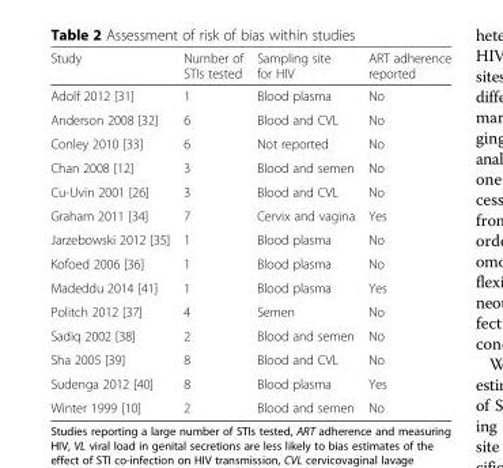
<table><thead><tr><td>Study</td><td>Number of STIs tested</td><td>Sampling site for HIV</td><td>ART adherence reported</td></tr></thead><tbody><tr><td>Adolf 2012 [31]</td><td>1</td><td>Blood plasma</td><td>No</td></tr><tr><td>Anderson 2008 [32]</td><td>6</td><td>Blood and CVL</td><td>No</td></tr><tr><td>Conley 2010 [33]</td><td>6</td><td>Not reported</td><td>No</td></tr><tr><td>Chan 2008 [12]</td><td>3</td><td>Blood and semen</td><td>No</td></tr><tr><td>Cu-Uvin 2001 [26]</td><td>3</td><td>Blood and CVL</td><td>No</td></tr><tr><td>Graham 2011 [34]</td><td>7</td><td>Cervix and vagina</td><td>Yes</td></tr><tr><td>Jarzebowski 2012 [35]</td><td>1</td><td>Blood plasma</td><td>No</td></tr><tr><td>Kofoed 2006 [36]</td><td>1</td><td>Blood plasma</td><td>No</td></tr><tr><td>Madeddu 2014 [41]</td><td>1</td><td>Blood plasma</td><td>Yes</td></tr><tr><td>Politch 2012 [37]</td><td>4</td><td>Semen</td><td>No</td></tr><tr><td>Sadiq 2002 [38]</td><td>2</td><td>Blood and semen</td><td>No</td></tr><tr><td>Sha 2005 [39]</td><td>8</td><td>Blood and CVL</td><td>No</td></tr><tr><td>Sudenga 2012 [40]</td><td>8</td><td>Blood plasma</td><td>Yes</td></tr><tr><td>Winter 1999 [10]</td><td>2</td><td>Blood and semen</td><td>No</td></tr></tbody></table>